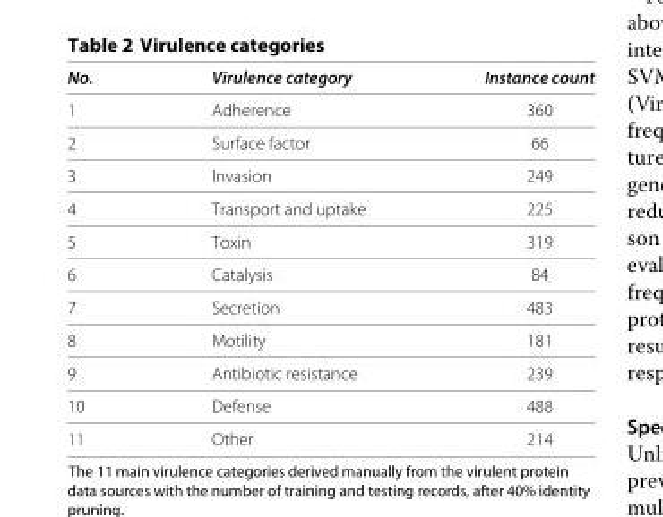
<table><thead><tr><td>No.</td><td>Virulence category</td><td>Instance count</td></tr></thead><tbody><tr><td>1</td><td>Adherence</td><td>360</td></tr><tr><td>2</td><td>Surface factor</td><td>66</td></tr><tr><td>3</td><td>Invasion</td><td>249</td></tr><tr><td>4</td><td>Transport and uptake</td><td>225</td></tr><tr><td>5</td><td>Toxin</td><td>319</td></tr><tr><td>6</td><td>Catalysis</td><td>84</td></tr><tr><td>7</td><td>Secretion</td><td>483</td></tr><tr><td>8</td><td>Motility</td><td>181</td></tr><tr><td>9</td><td>Antibiotic resistance</td><td>239</td></tr><tr><td>10</td><td>Defense</td><td>488</td></tr><tr><td>11</td><td>Other</td><td>214</td></tr></tbody></table>